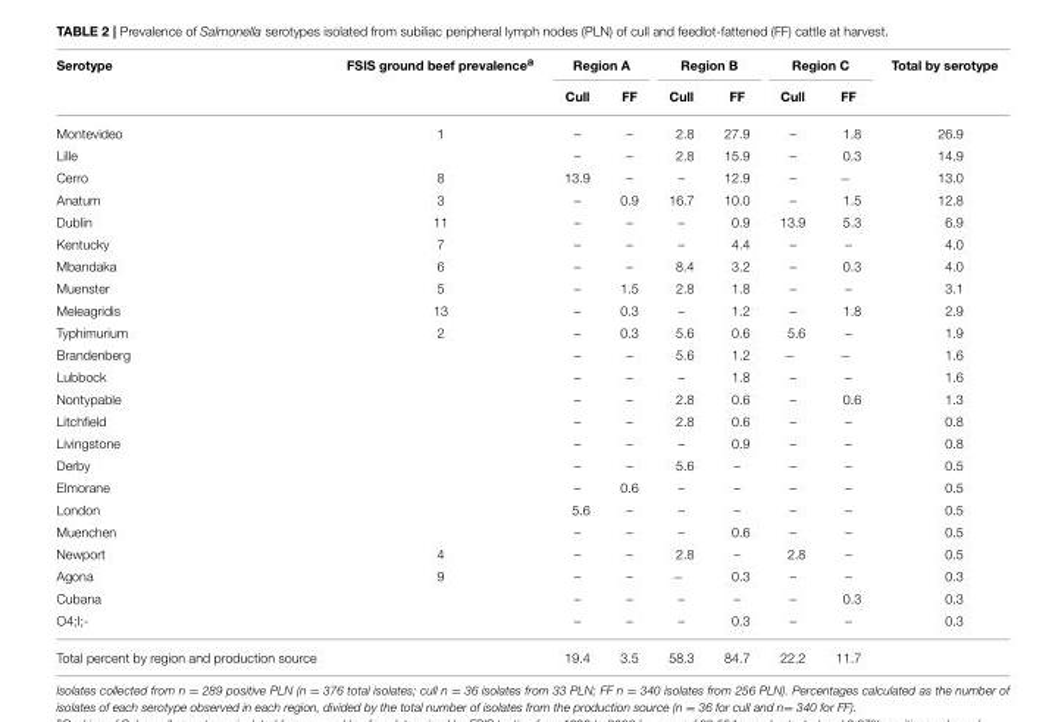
<table><thead><tr><td rowspan="2">Serotype</td><td rowspan="2">FSIS ground beef prevalence<sup>a</sup></td><td colspan="2">Region A</td><td colspan="2">Region B</td><td colspan="2">Region C</td><td rowspan="2">Total by serotype</td></tr><tr><td>Cull</td><td>FF</td><td>Cull</td><td>FF</td><td>Cull</td><td>FF</td></tr></thead><tbody><tr><td>Montevideo</td><td>1</td><td>–</td><td>–</td><td>2.8</td><td>27.9</td><td>–</td><td>1.8</td><td>26.9</td></tr><tr><td>Lille</td><td></td><td>–</td><td>–</td><td>2.8</td><td>15.9</td><td>–</td><td>0.3</td><td>14.9</td></tr><tr><td>Cerro</td><td>8</td><td>13.9</td><td>–</td><td>–</td><td>12.9</td><td>–</td><td>−</td><td>13.0</td></tr><tr><td>Anatum</td><td>3</td><td>–</td><td>0.9</td><td>16.7</td><td>10.0</td><td>–</td><td>1.5</td><td>12.8</td></tr><tr><td>Dublin</td><td>11</td><td>–</td><td>–</td><td>–</td><td>0.9</td><td>13.9</td><td>5.3</td><td>6.9</td></tr><tr><td>Kentucky</td><td>7</td><td>–</td><td>–</td><td>–</td><td>4.4</td><td>–</td><td>–</td><td>4.0</td></tr><tr><td>Mbandaka</td><td>6</td><td>–</td><td>–</td><td>8.4</td><td>3.2</td><td>–</td><td>0.3</td><td>4.0</td></tr><tr><td>Muenster</td><td>5</td><td>–</td><td>1.5</td><td>2.8</td><td>1.8</td><td>–</td><td>–</td><td>3.1</td></tr><tr><td>Meleagridis</td><td>13</td><td>–</td><td>0.3</td><td>–</td><td>1.2</td><td>–</td><td>1.8</td><td>2.9</td></tr><tr><td>Typhimurium</td><td>2</td><td>–</td><td>0.3</td><td>5.6</td><td>0.6</td><td>5.6</td><td>–</td><td>1.9</td></tr><tr><td>Brandenberg</td><td></td><td>–</td><td>–</td><td>5.6</td><td>1.2</td><td>−</td><td>−</td><td>1.6</td></tr><tr><td>Lubbock</td><td></td><td>–</td><td>–</td><td>–</td><td>1.8</td><td>–</td><td>–</td><td>1.6</td></tr><tr><td>Nontypable</td><td></td><td>–</td><td>–</td><td>2.8</td><td>0.6</td><td>–</td><td>0.6</td><td>1.3</td></tr><tr><td>Litchfield</td><td></td><td>–</td><td>–</td><td>2.8</td><td>0.6</td><td>–</td><td>–</td><td>0.8</td></tr><tr><td>Livingstone</td><td></td><td>–</td><td>–</td><td>–</td><td>0.9</td><td>–</td><td>–</td><td>0.8</td></tr><tr><td>Derby</td><td></td><td>–</td><td>–</td><td>5.6</td><td>–</td><td>–</td><td>–</td><td>0.5</td></tr><tr><td>Elmorane</td><td></td><td>–</td><td>0.6</td><td>–</td><td>–</td><td>–</td><td>–</td><td>0.5</td></tr><tr><td>London</td><td></td><td>5.6</td><td>–</td><td>–</td><td>–</td><td>–</td><td>–</td><td>0.5</td></tr><tr><td>Muenchen</td><td></td><td>–</td><td>–</td><td>–</td><td>0.6</td><td>–</td><td>–</td><td>0.5</td></tr><tr><td>Newport</td><td>4</td><td>–</td><td>–</td><td>2.8</td><td>–</td><td>2.8</td><td>–</td><td>0.5</td></tr><tr><td>Agona</td><td>9</td><td>–</td><td>–</td><td>−</td><td>0.3</td><td>–</td><td>–</td><td>0.3</td></tr><tr><td>Cubana</td><td></td><td>–</td><td>–</td><td>–</td><td>–</td><td>–</td><td>0.3</td><td>0.3</td></tr><tr><td>O4;I;-</td><td></td><td>–</td><td>–</td><td>–</td><td>0.3</td><td>–</td><td>–</td><td>0.3</td></tr><tr><td>Total percent by region and production source</td><td></td><td>19.4</td><td>3.5</td><td>58.3</td><td>84.7</td><td>22.2</td><td>11.7</td><td></td></tr></tbody></table>